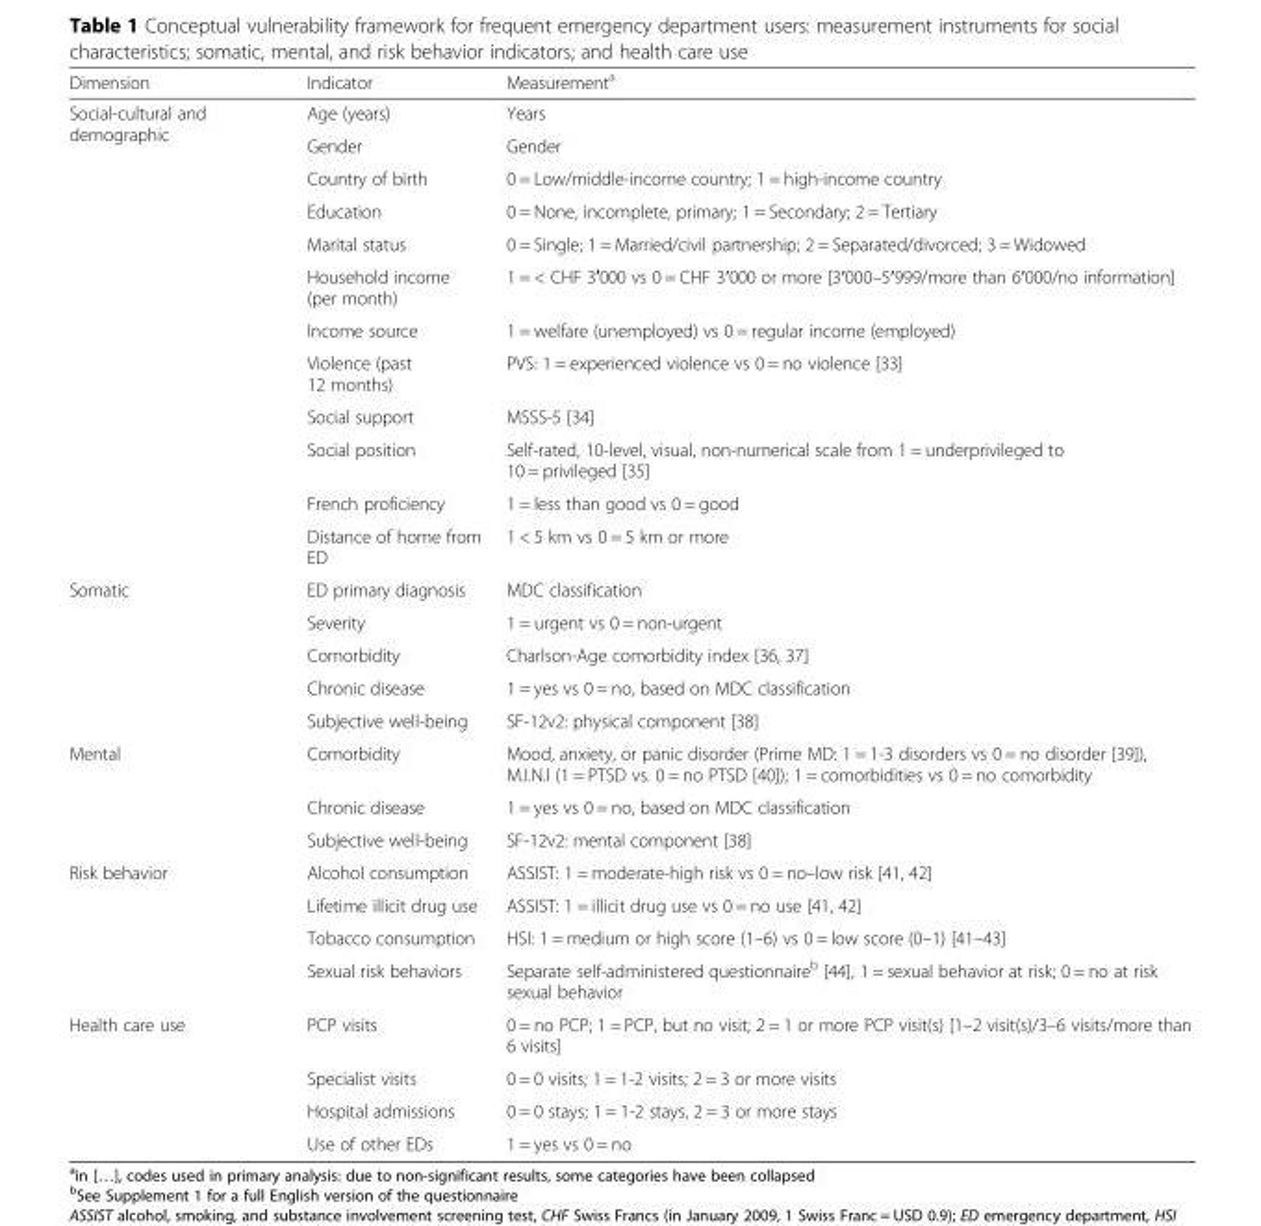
<table><thead><tr><td>Dimension</td><td>Indicator</td><td>Measurement<sup>a</sup></td></tr></thead><tbody><tr><td rowspan="12">Social-cultural and demographic</td><td>Age (years)</td><td>Years</td></tr><tr><td>Gender</td><td>Gender</td></tr><tr><td>Country of birth</td><td>0 = Low/middle-income country; 1 = high-income country</td></tr><tr><td>Education</td><td>0 = None, incomplete, primary; 1 = Secondary; 2 = Tertiary</td></tr><tr><td>Marital status</td><td>0 = Single; 1 = Married/civil partnership; 2 = Separated/divorced; 3 = Widowed</td></tr><tr><td>Household income (per month)</td><td>1 = &lt; CHF 3′000 vs 0 = CHF 3′000 or more [3′000–5′999/more than 6′000/no information]</td></tr><tr><td>Income source</td><td>1 = welfare (unemployed) vs 0 = regular income (employed)</td></tr><tr><td>Violence (past 12 months)</td><td>PVS: 1 = experienced violence vs 0 = no violence [33]</td></tr><tr><td>Social support</td><td>MSSS-5 [34]</td></tr><tr><td>Social position</td><td>Self-rated, 10-level, visual, non-numerical scale from 1 = underprivileged to 10 = privileged [35]</td></tr><tr><td>French proficiency</td><td>1 = less than good vs 0 = good</td></tr><tr><td>Distance of home from ED</td><td>1 &lt; 5 km vs 0 = 5 km or more</td></tr><tr><td rowspan="5">Somatic</td><td>ED primary diagnosis</td><td>MDC classification</td></tr><tr><td>Severity</td><td>1 = urgent vs 0 = non-urgent</td></tr><tr><td>Comorbidity</td><td>Charlson-Age comorbidity index [36, 37]</td></tr><tr><td>Chronic disease</td><td>1 = yes vs 0 = no, based on MDC classification</td></tr><tr><td>Subjective well-being</td><td>SF-12v2: physical component [38]</td></tr><tr><td rowspan="3">Mental</td><td>Comorbidity</td><td>Mood, anxiety, or panic disorder (Prime MD: 1 = 1-3 disorders vs 0 = no disorder [39]), M.I.N.I (1 = PTSD vs. 0 = no PTSD [40]); 1 = comorbidities vs 0 = no comorbidity</td></tr><tr><td>Chronic disease</td><td>1 = yes vs 0 = no, based on MDC classification</td></tr><tr><td>Subjective well-being</td><td>SF-12v2: mental component [38]</td></tr><tr><td rowspan="4">Risk behavior</td><td>Alcohol consumption</td><td>ASSIST: 1 = moderate-high risk vs 0 = no–low risk [41, 42]</td></tr><tr><td>Lifetime illicit drug use</td><td>ASSIST: 1 = illicit drug use vs 0 = no use [41, 42]</td></tr><tr><td>Tobacco consumption</td><td>HSI: 1 = medium or high score (1–6) vs 0 = low score (0–1) [41–43]</td></tr><tr><td>Sexual risk behaviors</td><td>Separate self-administered questionnaire<sup>b</sup> [44], 1 = sexual behavior at risk; 0 = no at risk sexual behavior</td></tr><tr><td rowspan="4">Health care use</td><td>PCP visits</td><td>0 = no PCP; 1 = PCP, but no visit; 2 = 1 or more PCP visit(s) [1–2 visit(s)/3–6 visits/more than 6 visits]</td></tr><tr><td>Specialist visits</td><td>0 = 0 visits; 1 = 1-2 visits; 2 = 3 or more visits</td></tr><tr><td>Hospital admissions</td><td>0 = 0 stays; 1 = 1-2 stays, 2 = 3 or more stays</td></tr><tr><td>Use of other EDs</td><td>1 = yes vs 0 = no</td></tr></tbody></table>